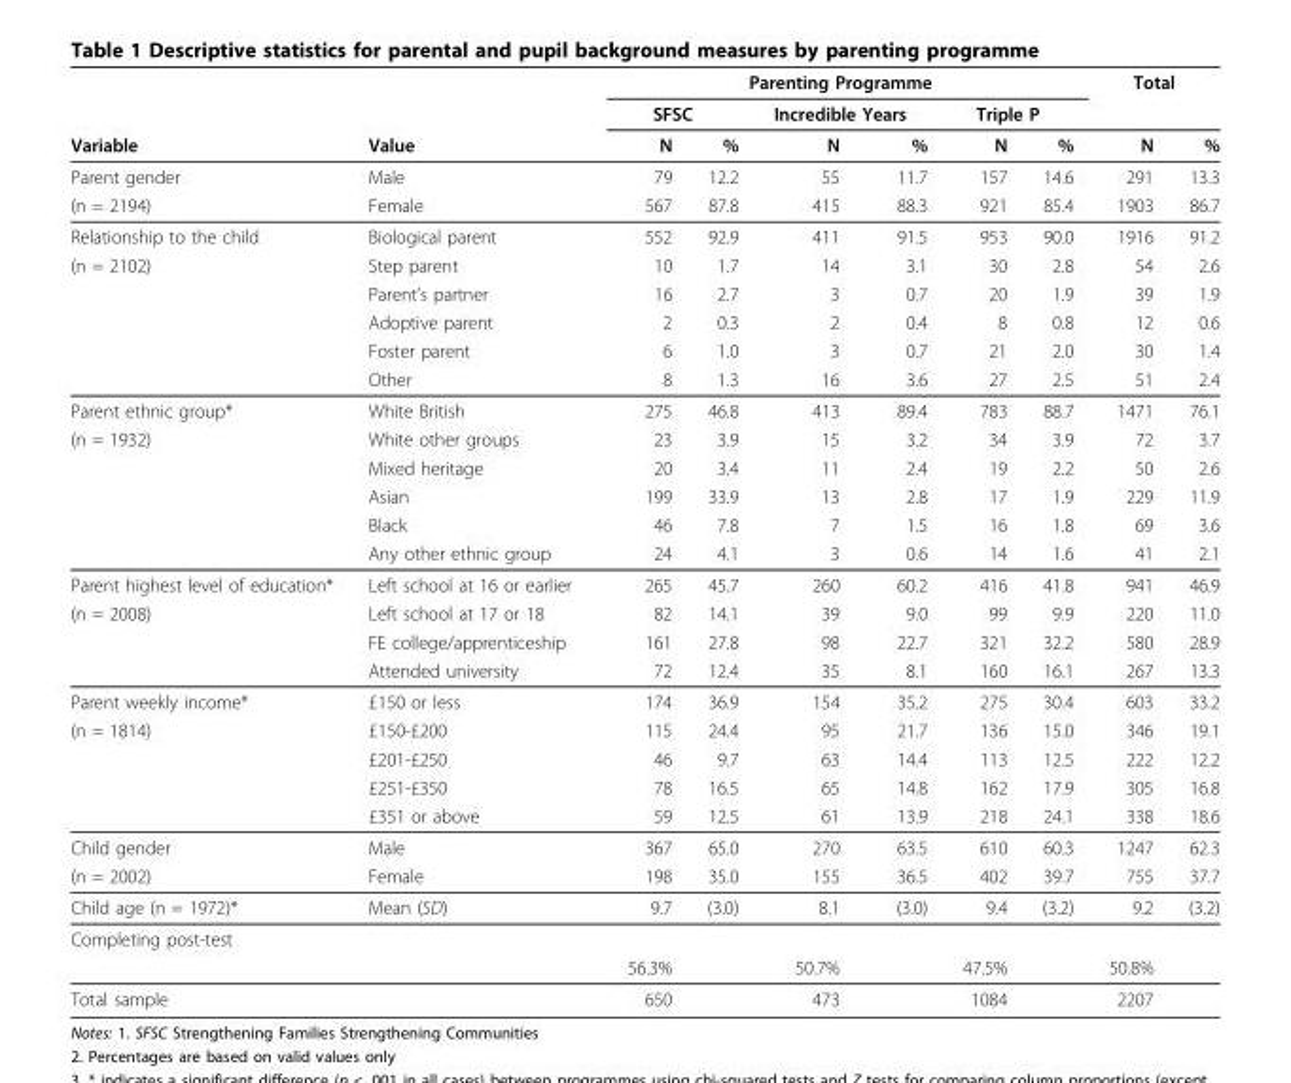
<table><thead><tr><td rowspan="3">Variable</td><td rowspan="3">Value</td><td colspan="6">Parenting Programme</td><td colspan="2">Total</td></tr><tr><td colspan="2">SFSC</td><td colspan="2">Incredible Years</td><td colspan="2">Triple P</td><td rowspan="2">N</td><td rowspan="2">%</td></tr><tr><td>N</td><td>%</td><td>N</td><td>%</td><td>N</td><td>%</td></tr></thead><tbody><tr><td>Parent gender</td><td>Male</td><td>79</td><td>12.2</td><td>55</td><td>11.7</td><td>157</td><td>14.6</td><td>291</td><td>13.3</td></tr><tr><td>(n = 2194)</td><td>Female</td><td>567</td><td>87.8</td><td>415</td><td>88.3</td><td>921</td><td>85.4</td><td>1903</td><td>86.7</td></tr><tr><td>Relationship to the child</td><td>Biological parent</td><td>552</td><td>92.9</td><td>411</td><td>91.5</td><td>953</td><td>90.0</td><td>1916</td><td>91.2</td></tr><tr><td rowspan="5">(n = 2102)</td><td>Step parent</td><td>10</td><td>1.7</td><td>14</td><td>3.1</td><td>30</td><td>2.8</td><td>54</td><td>2.6</td></tr><tr><td>Parent’s partner</td><td>16</td><td>2.7</td><td>3</td><td>0.7</td><td>20</td><td>1.9</td><td>39</td><td>1.9</td></tr><tr><td>Adoptive parent</td><td>2</td><td>0.3</td><td>2</td><td>0.4</td><td>8</td><td>0.8</td><td>12</td><td>0.6</td></tr><tr><td>Foster parent</td><td>6</td><td>1.0</td><td>3</td><td>0.7</td><td>21</td><td>2.0</td><td>30</td><td>1.4</td></tr><tr><td>Other</td><td>8</td><td>1.3</td><td>16</td><td>3.6</td><td>27</td><td>2.5</td><td>51</td><td>2.4</td></tr><tr><td>Parent ethnic group*</td><td>White British</td><td>275</td><td>46.8</td><td>413</td><td>89.4</td><td>783</td><td>88.7</td><td>1471</td><td>76.1</td></tr><tr><td rowspan="5">(n = 1932)</td><td>White other groups</td><td>23</td><td>3.9</td><td>15</td><td>3.2</td><td>34</td><td>3.9</td><td>72</td><td>3.7</td></tr><tr><td>Mixed heritage</td><td>20</td><td>3.4</td><td>11</td><td>2.4</td><td>19</td><td>2.2</td><td>50</td><td>2.6</td></tr><tr><td>Asian</td><td>199</td><td>33.9</td><td>13</td><td>2.8</td><td>17</td><td>1.9</td><td>229</td><td>11.9</td></tr><tr><td>Black</td><td>46</td><td>7.8</td><td>7</td><td>1.5</td><td>16</td><td>1.8</td><td>69</td><td>3.6</td></tr><tr><td>Any other ethnic group</td><td>24</td><td>4.1</td><td>3</td><td>0.6</td><td>14</td><td>1.6</td><td>41</td><td>2.1</td></tr><tr><td>Parent highest level of education*</td><td>Left school at 16 or earlier</td><td>265</td><td>45.7</td><td>260</td><td>60.2</td><td>416</td><td>41.8</td><td>941</td><td>46.9</td></tr><tr><td rowspan="3">(n = 2008)</td><td>Left school at 17 or 18</td><td>82</td><td>14.1</td><td>39</td><td>9.0</td><td>99</td><td>9.9</td><td>220</td><td>11.0</td></tr><tr><td>FE college/apprenticeship</td><td>161</td><td>27.8</td><td>98</td><td>22.7</td><td>321</td><td>32.2</td><td>580</td><td>28.9</td></tr><tr><td>Attended university</td><td>72</td><td>12.4</td><td>35</td><td>8.1</td><td>160</td><td>16.1</td><td>267</td><td>13.3</td></tr><tr><td>Parent weekly income*</td><td>£150 or less</td><td>174</td><td>36.9</td><td>154</td><td>35.2</td><td>275</td><td>30.4</td><td>603</td><td>33.2</td></tr><tr><td rowspan="4">(n = 1814)</td><td>£150-£200</td><td>115</td><td>24.4</td><td>95</td><td>21.7</td><td>136</td><td>15.0</td><td>346</td><td>19.1</td></tr><tr><td>£201-£250</td><td>46</td><td>9.7</td><td>63</td><td>14.4</td><td>113</td><td>12.5</td><td>222</td><td>12.2</td></tr><tr><td>£251-£350</td><td>78</td><td>16.5</td><td>65</td><td>14.8</td><td>162</td><td>17.9</td><td>305</td><td>16.8</td></tr><tr><td>£351 or above</td><td>59</td><td>12.5</td><td>61</td><td>13.9</td><td>218</td><td>24.1</td><td>338</td><td>18.6</td></tr><tr><td>Child gender</td><td>Male</td><td>367</td><td>65.0</td><td>270</td><td>63.5</td><td>610</td><td>60.3</td><td>1247</td><td>62.3</td></tr><tr><td>(n = 2002)</td><td>Female</td><td>198</td><td>35.0</td><td>155</td><td>36.5</td><td>402</td><td>39.7</td><td>755</td><td>37.7</td></tr><tr><td>Child age (n = 1972)*</td><td>Mean (SD)</td><td>9.7</td><td>(3.0)</td><td>8.1</td><td>(3.0)</td><td>9.4</td><td>(3.2)</td><td>9.2</td><td>(3.2)</td></tr><tr><td colspan="10">Completing post-test</td></tr><tr><td></td><td></td><td>56.3%</td><td></td><td>50.7%</td><td></td><td>47.5%</td><td></td><td>50.8%</td><td></td></tr><tr><td>Total sample</td><td></td><td>650</td><td></td><td>473</td><td></td><td>1084</td><td></td><td>2207</td><td></td></tr></tbody></table>